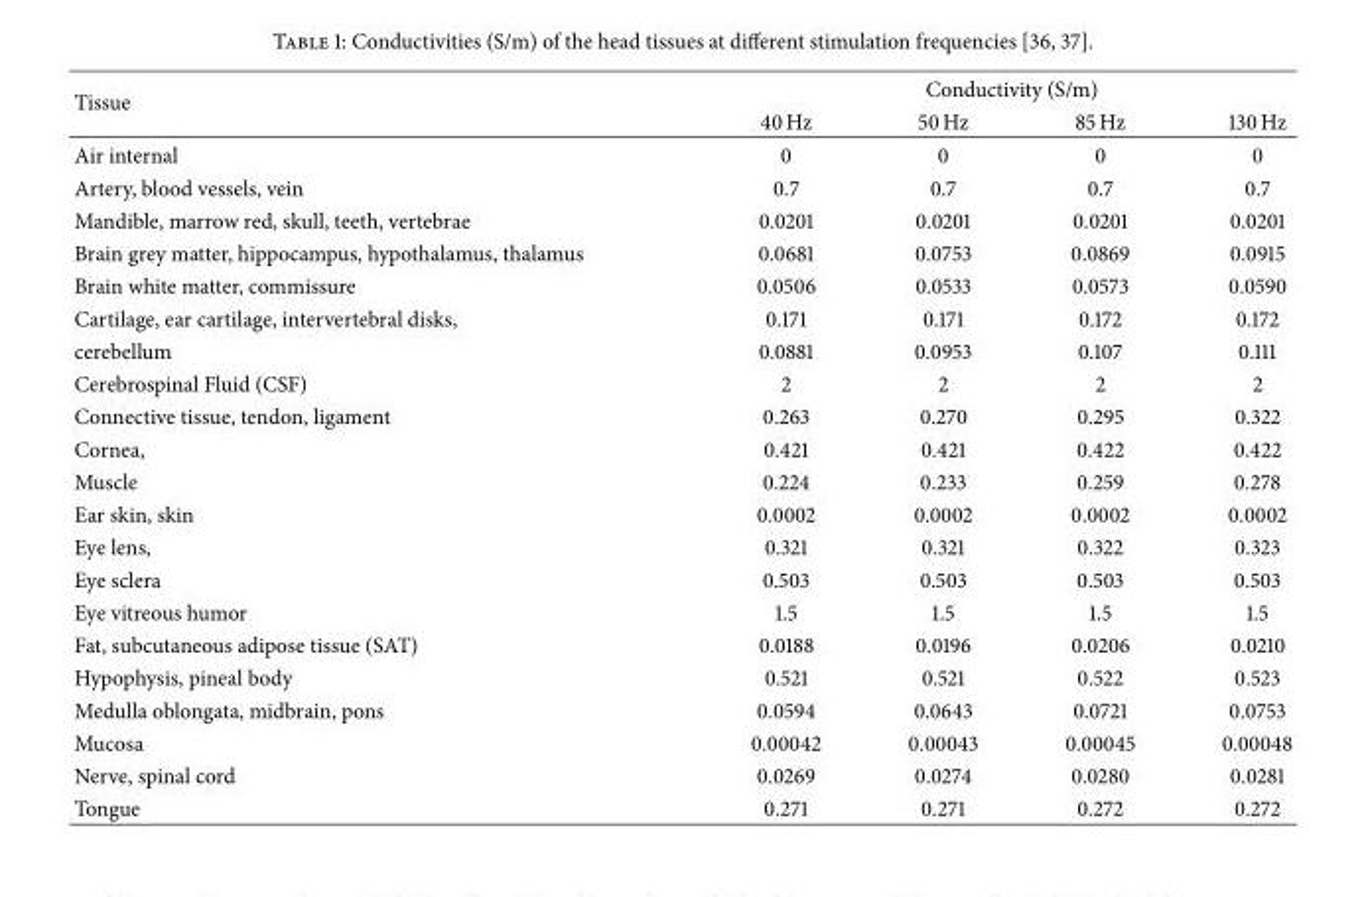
<table><thead><tr><td rowspan="2">Tissue</td><td colspan="4">Conductivity (S/m)</td></tr><tr><td>40 Hz</td><td>50 Hz</td><td>85 Hz</td><td>130 Hz</td></tr></thead><tbody><tr><td>Air internal</td><td>0</td><td>0</td><td>0</td><td>0</td></tr><tr><td>Artery, blood vessels, vein</td><td>0.7</td><td>0.7</td><td>0.7</td><td>0.7</td></tr><tr><td>Mandible, marrow red, skull, teeth, vertebrae</td><td>0.0201</td><td>0.0201</td><td>0.0201</td><td>0.0201</td></tr><tr><td>Brain grey matter, hippocampus, hypothalamus, thalamus</td><td>0.0681</td><td>0.0753</td><td>0.0869</td><td>0.0915</td></tr><tr><td>Brain white matter, commissure</td><td>0.0506</td><td>0.0533</td><td>0.0573</td><td>0.0590</td></tr><tr><td>Cartilage, ear cartilage, intervertebral disks,</td><td>0.171</td><td>0.171</td><td>0.172</td><td>0.172</td></tr><tr><td>cerebellum</td><td>0.0881</td><td>0.0953</td><td>0.107</td><td>0.111</td></tr><tr><td>Cerebrospinal Fluid (CSF)</td><td>2</td><td>2</td><td>2</td><td>2</td></tr><tr><td>Connective tissue, tendon, ligament</td><td>0.263</td><td>0.270</td><td>0.295</td><td>0.322</td></tr><tr><td>Cornea,</td><td>0.421</td><td>0.421</td><td>0.422</td><td>0.422</td></tr><tr><td>Muscle</td><td>0.224</td><td>0.233</td><td>0.259</td><td>0.278</td></tr><tr><td>Ear skin, skin</td><td>0.0002</td><td>0.0002</td><td>0.0002</td><td>0.0002</td></tr><tr><td>Eye lens,</td><td>0.321</td><td>0.321</td><td>0.322</td><td>0.323</td></tr><tr><td>Eye sclera</td><td>0.503</td><td>0.503</td><td>0.503</td><td>0.503</td></tr><tr><td>Eye vitreous humor</td><td>1.5</td><td>1.5</td><td>1.5</td><td>1.5</td></tr><tr><td>Fat, subcutaneous adipose tissue (SAT)</td><td>0.0188</td><td>0.0196</td><td>0.0206</td><td>0.0210</td></tr><tr><td>Hypophysis, pineal body</td><td>0.521</td><td>0.521</td><td>0.522</td><td>0.523</td></tr><tr><td>Medulla oblongata, midbrain, pons</td><td>0.0594</td><td>0.0643</td><td>0.0721</td><td>0.0753</td></tr><tr><td>Mucosa</td><td>0.00042</td><td>0.00043</td><td>0.00045</td><td>0.00048</td></tr><tr><td>Nerve, spinal cord</td><td>0.0269</td><td>0.0274</td><td>0.0280</td><td>0.0281</td></tr><tr><td>Tongue</td><td>0.271</td><td>0.271</td><td>0.272</td><td>0.272</td></tr></tbody></table>